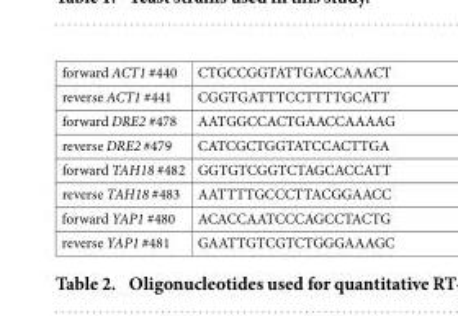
<table><tbody><tr><td>forward ACT1 #440</td><td>CTGCCGGTATTGACCAAACT</td></tr><tr><td>reverse ACT1 #441</td><td>CGGTGATTTCCTTTTGCATT</td></tr><tr><td>forward DRE2 #478</td><td>AATGGCCACTGAACCAAAAG</td></tr><tr><td>reverse DRE2 #479</td><td>CATCGCTGGTATCCACTTGA</td></tr><tr><td>forward TAH18 #482</td><td>GGTGTCGGTCTAGCACCATT</td></tr><tr><td>reverse TAH18 #483</td><td>AATTTTGCCCTTACGGAACC</td></tr><tr><td>forward YAP1 #480</td><td>ACACCAATCCCAGCCTACTG</td></tr><tr><td>reverse YAP1 #481</td><td>GAATTGTCGTCTGGGAAAGC</td></tr></tbody></table>